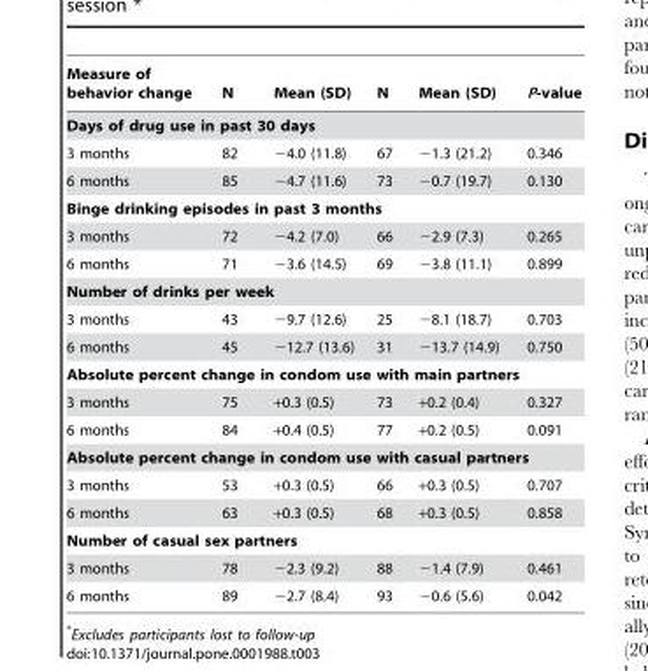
<table><thead><tr><td>Measure of behavior change</td><td>N</td><td>Mean (SD)</td><td>N</td><td>Mean (SD)</td><td>P-value</td></tr></thead><tbody><tr><td colspan="6">Days of drug use in past 30 days</td></tr><tr><td>3 months</td><td>82</td><td>−4.0 (11.8)</td><td>67</td><td>−1.3 (21.2)</td><td>0.346</td></tr><tr><td>6 months</td><td>85</td><td>−4.7 (11.6)</td><td>73</td><td>−0.7 (19.7)</td><td>0.130</td></tr><tr><td colspan="6">Binge drinking episodes in past 3 months</td></tr><tr><td>3 months</td><td>72</td><td>−4.2 (7.0)</td><td>66</td><td>−2.9 (7.3)</td><td>0.265</td></tr><tr><td>6 months</td><td>71</td><td>−3.6 (14.5)</td><td>69</td><td>−3.8 (11.1)</td><td>0.899</td></tr><tr><td colspan="6">Number of drinks per week</td></tr><tr><td>3 months</td><td>43</td><td>−9.7 (12.6)</td><td>25</td><td>−8.1 (18.7)</td><td>0.703</td></tr><tr><td>6 months</td><td>45</td><td>−12.7 (13.6)</td><td>31</td><td>−13.7 (14.9)</td><td>0.750</td></tr><tr><td colspan="6">Absolute percent change in condom use with main partners</td></tr><tr><td>3 months</td><td>75</td><td>+0.3 (0.5)</td><td>73</td><td>+0.2 (0.4)</td><td>0.327</td></tr><tr><td>6 months</td><td>84</td><td>+0.4 (0.5)</td><td>77</td><td>+0.2 (0.5)</td><td>0.091</td></tr><tr><td colspan="6">Absolute percent change in condom use with casual partners</td></tr><tr><td>3 months</td><td>53</td><td>+0.3 (0.5)</td><td>66</td><td>+0.3 (0.5)</td><td>0.707</td></tr><tr><td>6 months</td><td>63</td><td>+0.3 (0.5)</td><td>68</td><td>+0.3 (0.5)</td><td>0.858</td></tr><tr><td colspan="6">Number of casual sex partners</td></tr><tr><td>3 months</td><td>78</td><td>−2.3 (9.2)</td><td>88</td><td>−1.4 (7.9)</td><td>0.461</td></tr><tr><td>6 months</td><td>89</td><td>−2.7 (8.4)</td><td>93</td><td>−0.6 (5.6)</td><td>0.042</td></tr></tbody></table>